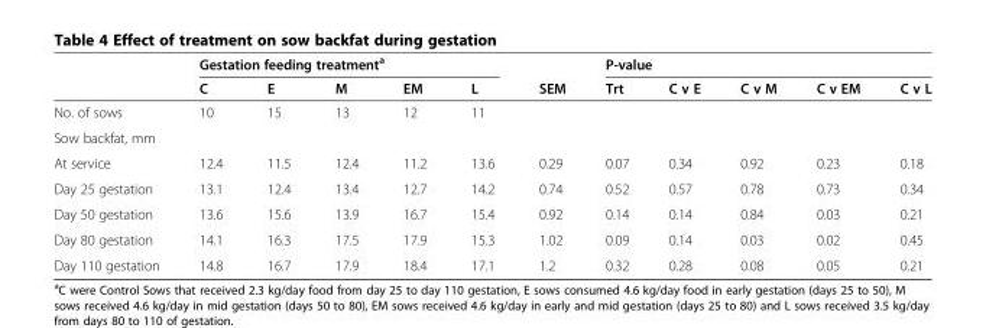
<table><thead><tr><td rowspan="2"></td><td colspan="5">Gestation feeding treatment<sup>a</sup></td><td rowspan="2">SEM</td><td colspan="5">P-value</td></tr><tr><td>C</td><td>E</td><td>M</td><td>EM</td><td>L</td><td>Trt</td><td>C v E</td><td>C v M</td><td>C v EM</td><td>C v L</td></tr></thead><tbody><tr><td>No. of sows</td><td>10</td><td>15</td><td>13</td><td>12</td><td>11</td><td></td><td></td><td></td><td></td><td></td><td></td></tr><tr><td colspan="12">Sow backfat, mm</td></tr><tr><td>At service</td><td>12.4</td><td>11.5</td><td>12.4</td><td>11.2</td><td>13.6</td><td>0.29</td><td>0.07</td><td>0.34</td><td>0.92</td><td>0.23</td><td>0.18</td></tr><tr><td>Day 25 gestation</td><td>13.1</td><td>12.4</td><td>13.4</td><td>12.7</td><td>14.2</td><td>0.74</td><td>0.52</td><td>0.57</td><td>0.78</td><td>0.73</td><td>0.34</td></tr><tr><td>Day 50 gestation</td><td>13.6</td><td>15.6</td><td>13.9</td><td>16.7</td><td>15.4</td><td>0.92</td><td>0.14</td><td>0.14</td><td>0.84</td><td>0.03</td><td>0.21</td></tr><tr><td>Day 80 gestation</td><td>14.1</td><td>16.3</td><td>17.5</td><td>17.9</td><td>15.3</td><td>1.02</td><td>0.09</td><td>0.14</td><td>0.03</td><td>0.02</td><td>0.45</td></tr><tr><td>Day 110 gestation</td><td>14.8</td><td>16.7</td><td>17.9</td><td>18.4</td><td>17.1</td><td>1.2</td><td>0.32</td><td>0.28</td><td>0.08</td><td>0.05</td><td>0.21</td></tr></tbody></table>